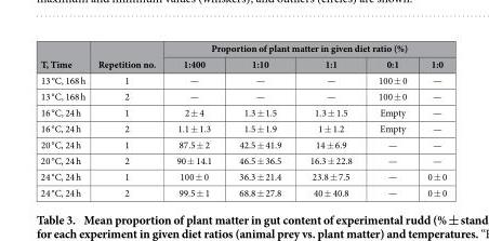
<table><thead><tr><td rowspan="2">T, Time</td><td rowspan="2">Repetition no.</td><td colspan="5">Proportion of plant matter in given diet ratio (%)</td></tr><tr><td>1:400</td><td>1:10</td><td>1:1</td><td>0:1</td><td>1:0</td></tr></thead><tbody><tr><td>13 °C, 168 h</td><td>1</td><td>—</td><td>—</td><td>—</td><td>100 ± 0</td><td>—</td></tr><tr><td>13 °C, 168 h</td><td>2</td><td>—</td><td>—</td><td>—</td><td>100 ± 0</td><td>—</td></tr><tr><td>16 °C, 24 h</td><td>1</td><td>2 ± 4</td><td>1.3 ± 1.5</td><td>1.3 ± 1.5</td><td>Empty</td><td>—</td></tr><tr><td>16 °C, 24 h</td><td>2</td><td>1.1 ± 1.3</td><td>1.5 ± 1.9</td><td>1 ± 1.2</td><td>Empty</td><td>—</td></tr><tr><td>20 °C, 24 h</td><td>1</td><td>87.5 ± 2</td><td>42.5 ± 41.9</td><td>14 ± 6.9</td><td>—</td><td>—</td></tr><tr><td>20 °C, 24 h</td><td>2</td><td>90 ± 14.1</td><td>46.5 ± 36.5</td><td>16.3 ± 22.8</td><td>—</td><td>—</td></tr><tr><td>24 °C, 24 h</td><td>1</td><td>100 ± 0</td><td>36.3 ± 21.4</td><td>23.8 ± 7.5</td><td>—</td><td>0 ± 0</td></tr><tr><td>24 °C, 24 h</td><td>2</td><td>99.5 ± 1</td><td>68.8 ± 27.8</td><td>40 ± 40.8</td><td>—</td><td>0 ± 0</td></tr></tbody></table>